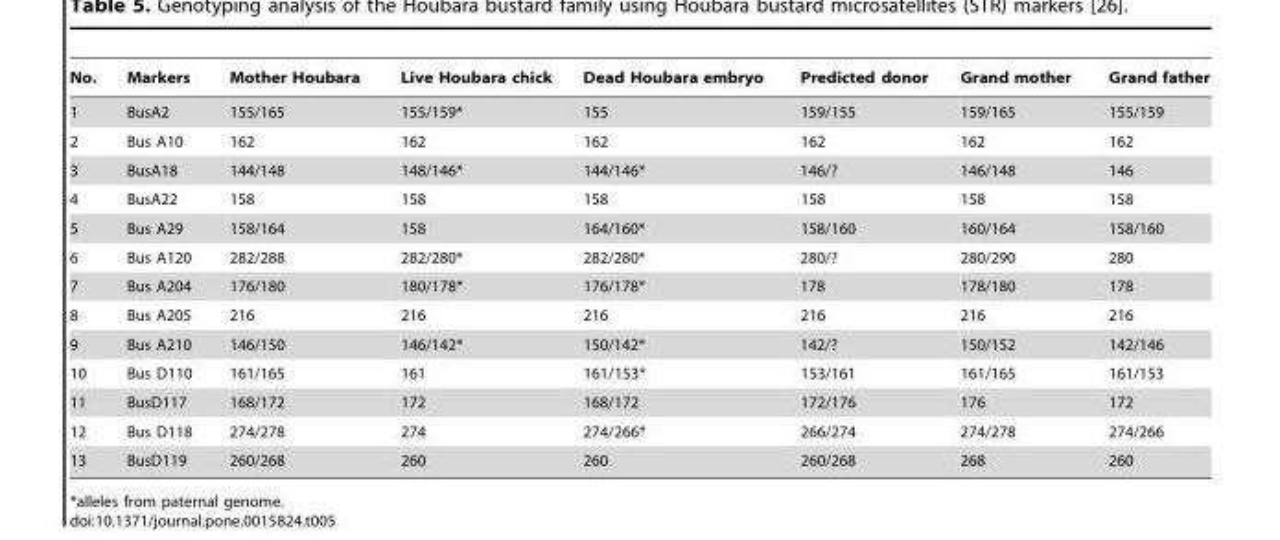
<table><thead><tr><td>No.</td><td>Markers</td><td>Mother Houbara</td><td>Live Houbara chick</td><td>Dead Houbara embryo</td><td>Predicted donor</td><td>Grand mother</td><td>Grand father</td></tr></thead><tbody><tr><td>1</td><td>BusA2</td><td>155/165</td><td>155/159*</td><td>155</td><td>159/155</td><td>159/165</td><td>155/159</td></tr><tr><td>2</td><td>Bus A10</td><td>162</td><td>162</td><td>162</td><td>162</td><td>162</td><td>162</td></tr><tr><td>3</td><td>BusA18</td><td>144/148</td><td>148/146*</td><td>144/146*</td><td>146/?</td><td>146/148</td><td>146</td></tr><tr><td>4</td><td>BusA22</td><td>158</td><td>158</td><td>158</td><td>158</td><td>158</td><td>158</td></tr><tr><td>5</td><td>Bus A29</td><td>158/164</td><td>158</td><td>164/160*</td><td>158/160</td><td>160/164</td><td>158/160</td></tr><tr><td>6</td><td>Bus A120</td><td>282/288</td><td>282/280*</td><td>282/280*</td><td>280/?</td><td>280/290</td><td>280</td></tr><tr><td>7</td><td>Bus A204</td><td>176/180</td><td>180/178*</td><td>176/178*</td><td>178</td><td>178/180</td><td>178</td></tr><tr><td>8</td><td>Bus A205</td><td>216</td><td>216</td><td>216</td><td>216</td><td>216</td><td>216</td></tr><tr><td>9</td><td>Bus A210</td><td>146/150</td><td>146/142*</td><td>150/142*</td><td>142/?</td><td>150/152</td><td>142/146</td></tr><tr><td>10</td><td>Bus D110</td><td>161/165</td><td>161</td><td>161/153*</td><td>153/161</td><td>161/165</td><td>161/153</td></tr><tr><td>11</td><td>BusD117</td><td>168/172</td><td>172</td><td>168/172</td><td>172/176</td><td>176</td><td>172</td></tr><tr><td>12</td><td>Bus D118</td><td>274/278</td><td>274</td><td>274/266*</td><td>266/274</td><td>274/278</td><td>274/266</td></tr><tr><td>13</td><td>BusD119</td><td>260/268</td><td>260</td><td>260</td><td>260/268</td><td>268</td><td>260</td></tr></tbody></table>